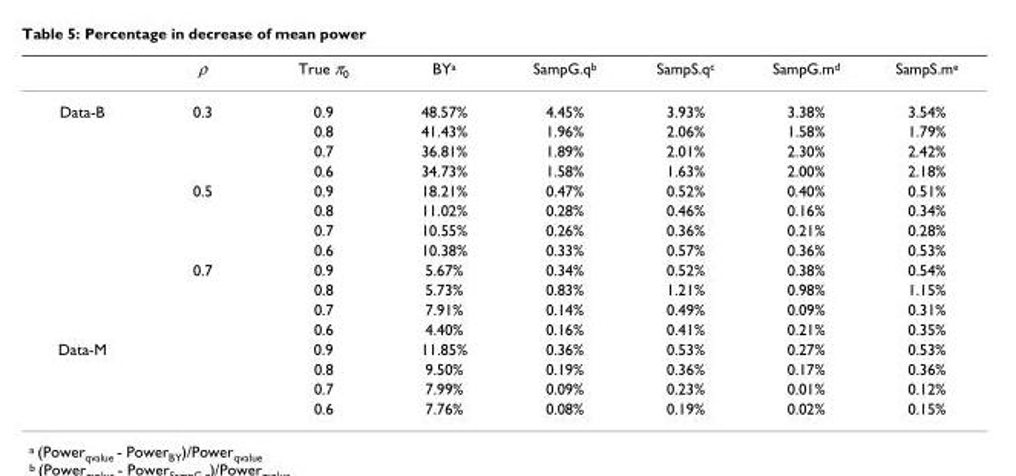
<table><thead><tr><td></td><td>ρ</td><td>True π<sub>0</sub></td><td>BY<sup>a</sup></td><td>SampG.q<sup>b</sup></td><td>SampS.q<sup>c</sup></td><td>SampG.m<sup>d</sup></td><td>SampS.m<sup>e</sup></td></tr></thead><tbody><tr><td rowspan="12">Data-B</td><td>0.3</td><td>0.9</td><td>48.57%</td><td>4.45%</td><td>3.93%</td><td>3.38%</td><td>3.54%</td></tr><tr><td></td><td>0.8</td><td>41.43%</td><td>1.96%</td><td>2.06%</td><td>1.58%</td><td>1.79%</td></tr><tr><td></td><td>0.7</td><td>36.81%</td><td>1.89%</td><td>2.01%</td><td>2.30%</td><td>2.42%</td></tr><tr><td></td><td>0.6</td><td>34.73%</td><td>1.58%</td><td>1.63%</td><td>2.00%</td><td>2.18%</td></tr><tr><td>0.5</td><td>0.9</td><td>18.21%</td><td>0.47%</td><td>0.52%</td><td>0.40%</td><td>0.51%</td></tr><tr><td></td><td>0.8</td><td>11.02%</td><td>0.28%</td><td>0.46%</td><td>0.16%</td><td>0.34%</td></tr><tr><td></td><td>0.7</td><td>10.55%</td><td>0.26%</td><td>0.36%</td><td>0.21%</td><td>0.28%</td></tr><tr><td></td><td>0.6</td><td>10.38%</td><td>0.33%</td><td>0.57%</td><td>0.36%</td><td>0.53%</td></tr><tr><td>0.7</td><td>0.9</td><td>5.67%</td><td>0.34%</td><td>0.52%</td><td>0.38%</td><td>0.54%</td></tr><tr><td></td><td>0.8</td><td>5.73%</td><td>0.83%</td><td>1.21%</td><td>0.98%</td><td>1.15%</td></tr><tr><td></td><td>0.7</td><td>7.91%</td><td>0.14%</td><td>0.49%</td><td>0.09%</td><td>0.31%</td></tr><tr><td></td><td>0.6</td><td>4.40%</td><td>0.16%</td><td>0.41%</td><td>0.21%</td><td>0.35%</td></tr><tr><td rowspan="4">Data-M</td><td></td><td>0.9</td><td>11.85%</td><td>0.36%</td><td>0.53%</td><td>0.27%</td><td>0.53%</td></tr><tr><td></td><td>0.8</td><td>9.50%</td><td>0.19%</td><td>0.36%</td><td>0.17%</td><td>0.36%</td></tr><tr><td></td><td>0.7</td><td>7.99%</td><td>0.09%</td><td>0.23%</td><td>0.01%</td><td>0.12%</td></tr><tr><td></td><td>0.6</td><td>7.76%</td><td>0.08%</td><td>0.19%</td><td>0.02%</td><td>0.15%</td></tr></tbody></table>